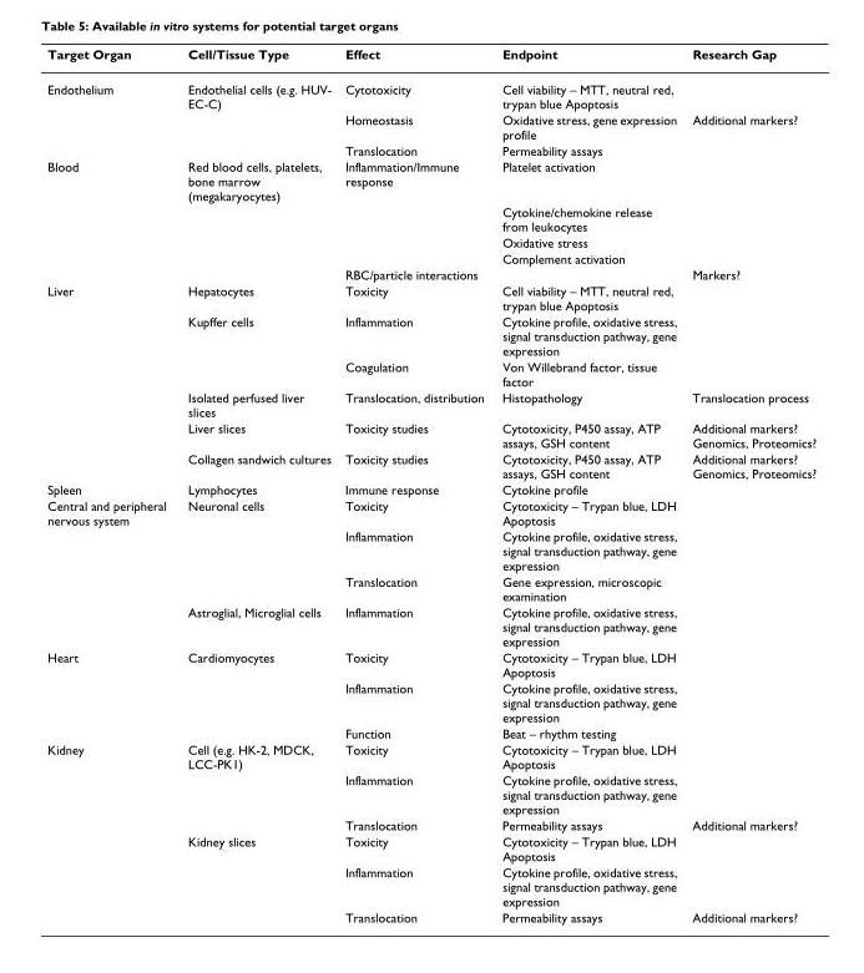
<table><thead><tr><td>Target Organ</td><td>Cell/Tissue Type</td><td>Effect</td><td>Endpoint</td><td>Research Gap</td></tr></thead><tbody><tr><td rowspan="3">Endothelium</td><td>Endothelial cells (e.g. HUV- EC-C)</td><td>Cytotoxicity</td><td>Cell viability – MTT, neutral red, trypan blue Apoptosis</td><td></td></tr><tr><td></td><td>Homeostasis</td><td>Oxidative stress, gene expression profile</td><td>Additional markers?</td></tr><tr><td></td><td>Translocation</td><td>Permeability assays</td><td></td></tr><tr><td rowspan="5">Blood</td><td>Red blood cells, platelets, bone marrow (megakaryocytes)</td><td>Inflammation/Immune response</td><td>Platelet activation</td><td></td></tr><tr><td></td><td></td><td>Cytokine/chemokine release from leukocytes</td><td></td></tr><tr><td></td><td></td><td>Oxidative stress</td><td></td></tr><tr><td></td><td></td><td>Complement activation</td><td></td></tr><tr><td></td><td>RBC/particle interactions</td><td></td><td>Markers?</td></tr><tr><td rowspan="6">Liver</td><td>Hepatocytes</td><td>Toxicity</td><td>Cell viability – MTT, neutral red, trypan blue Apoptosis</td><td></td></tr><tr><td>Kupffer cells</td><td>Inflammation</td><td>Cytokine profile, oxidative stress, signal transduction pathway, gene expression</td><td></td></tr><tr><td></td><td>Coagulation</td><td>Von Willebrand factor, tissue factor</td><td></td></tr><tr><td>Isolated perfused liver slices</td><td>Translocation, distribution</td><td>Histopathology</td><td>Translocation process</td></tr><tr><td>Liver slices</td><td>Toxicity studies</td><td>Cytotoxicity, P450 assay, ATP assays, GSH content</td><td>Additional markers? Genomics, Proteomics?</td></tr><tr><td>Collagen sandwich cultures</td><td>Toxicity studies</td><td>Cytotoxicity, P450 assay, ATP assays, GSH content</td><td>Additional markers? Genomics, Proteomics?</td></tr><tr><td>Spleen</td><td>Lymphocytes</td><td>Immune response</td><td>Cytokine profile</td><td></td></tr><tr><td rowspan="4">Central and peripheral nervous system</td><td>Neuronal cells</td><td>Toxicity</td><td>Cytotoxicity – Trypan blue, LDH Apoptosis</td><td></td></tr><tr><td></td><td>Inflammation</td><td>Cytokine profile, oxidative stress, signal transduction pathway, gene expression</td><td></td></tr><tr><td></td><td>Translocation</td><td>Gene expression, microscopic examination</td><td></td></tr><tr><td>Astroglial, Microglial cells</td><td>Inflammation</td><td>Cytokine profile, oxidative stress, signal transduction pathway, gene expression</td><td></td></tr><tr><td rowspan="3">Heart</td><td>Cardiomyocytes</td><td>Toxicity</td><td>Cytotoxicity – Trypan blue, LDH Apoptosis</td><td></td></tr><tr><td></td><td>Inflammation</td><td>Cytokine profile, oxidative stress, signal transduction pathway, gene expression</td><td></td></tr><tr><td></td><td>Function</td><td>Beat – rhythm testing</td><td></td></tr><tr><td rowspan="6">Kidney</td><td>Cell (e.g. HK-2, MDCK, LCC-PK1)</td><td>Toxicity</td><td>Cytotoxicity – Trypan blue, LDH Apoptosis</td><td></td></tr><tr><td></td><td>Inflammation</td><td>Cytokine profile, oxidative stress, signal transduction pathway, gene expression</td><td></td></tr><tr><td></td><td>Translocation</td><td>Permeability assays</td><td>Additional markers?</td></tr><tr><td>Kidney slices</td><td>Toxicity</td><td>Cytotoxicity – Trypan blue, LDH Apoptosis</td><td></td></tr><tr><td></td><td>Inflammation</td><td>Cytokine profile, oxidative stress, signal transduction pathway, gene expression</td><td></td></tr><tr><td></td><td>Translocation</td><td>Permeability assays</td><td>Additional markers?</td></tr></tbody></table>